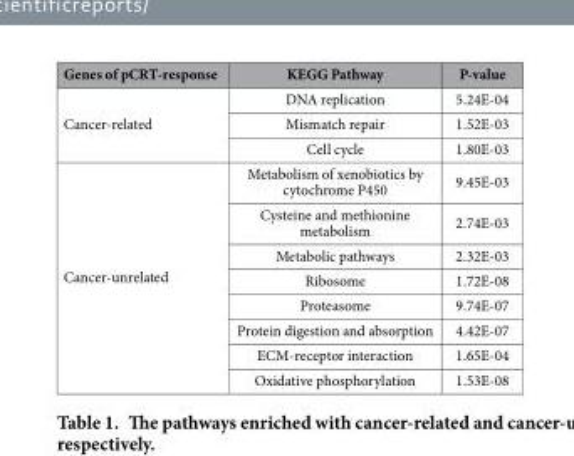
<table><thead><tr><td>Genes of pCRT-response</td><td>KEGG Pathway</td><td>P-value</td></tr></thead><tbody><tr><td rowspan="3">Cancer-related</td><td>DNA replication</td><td>5.24E-04</td></tr><tr><td>Mismatch repair</td><td>1.52E-03</td></tr><tr><td>Cell cycle</td><td>1.80E-03</td></tr><tr><td rowspan="8">Cancer-unrelated</td><td>Metabolism of xenobiotics by cytochrome P450</td><td>9.45E-03</td></tr><tr><td>Cysteine and methionine metabolism</td><td>2.74E-03</td></tr><tr><td>Metabolic pathways</td><td>2.32E-03</td></tr><tr><td>Ribosome</td><td>1.72E-08</td></tr><tr><td>Proteasome</td><td>9.74E-07</td></tr><tr><td>Protein digestion and absorption</td><td>4.42E-07</td></tr><tr><td>ECM-receptor interaction</td><td>1.65E-04</td></tr><tr><td>Oxidative phosphorylation</td><td>1.53E-08</td></tr></tbody></table>